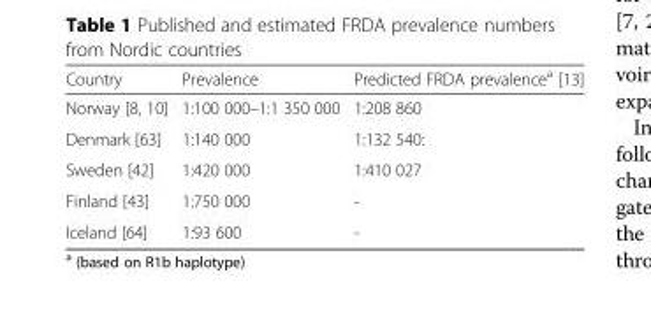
<table><thead><tr><td>Country</td><td>Prevalence</td><td>Predicted FRDA prevalence<sup>a</sup> [13]</td></tr></thead><tbody><tr><td>Norway [8, 10]</td><td>1:100 000–1:1 350 000</td><td>1:208 860</td></tr><tr><td>Denmark [63]</td><td>1:140 000</td><td>1:132 540:</td></tr><tr><td>Sweden [42]</td><td>1:420 000</td><td>1:410 027</td></tr><tr><td>Finland [43]</td><td>1:750 000</td><td>-</td></tr><tr><td>Iceland [64]</td><td>1:93 600</td><td>-</td></tr></tbody></table>